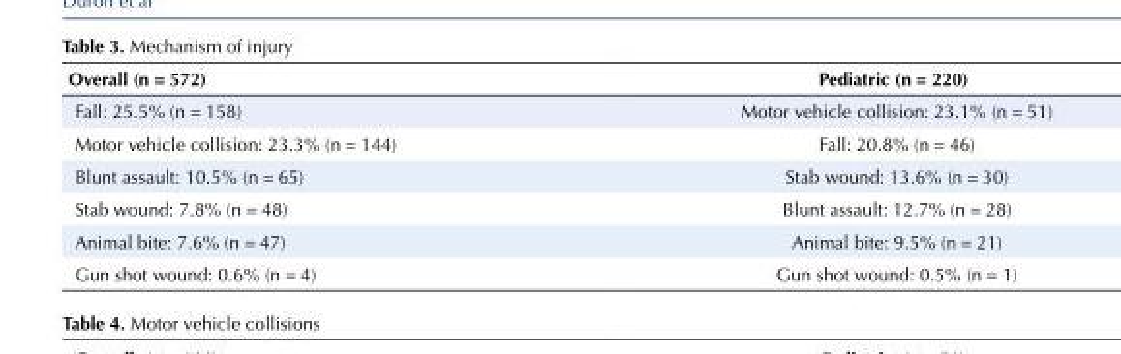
<table><tbody><tr><td>Overall (n = 572)</td><td>Pediatric (n = 220)</td></tr><tr><td>Fall: 25.5% (n = 158)</td><td>Motor vehicle collision: 23.1% (n = 51)</td></tr><tr><td>Motor vehicle collision: 23.3% (n = 144)</td><td>Fall: 20.8% (n = 46)</td></tr><tr><td>Blunt assault: 10.5% (n = 65)</td><td>Stab wound: 13.6% (n = 30)</td></tr><tr><td>Stab wound: 7.8% (n = 48)</td><td>Blunt assault: 12.7% (n = 28)</td></tr><tr><td>Animal bite: 7.6% (n = 47)</td><td>Animal bite: 9.5% (n = 21)</td></tr><tr><td>Gun shot wound: 0.6% (n = 4)</td><td>Gun shot wound: 0.5% (n = 1)</td></tr></tbody></table>